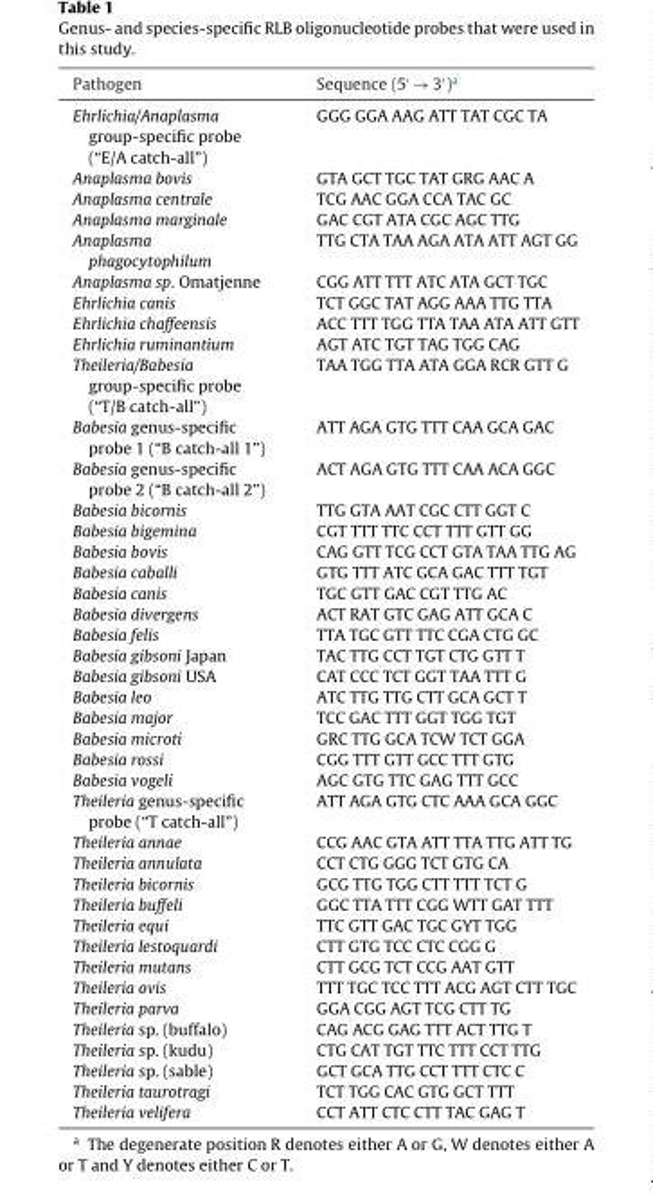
<table><thead><tr><td>Pathogen</td><td>Sequence (5′ → 3′)<sup>a</sup></td></tr></thead><tbody><tr><td>Ehrlichia/Anaplasma group-specific probe (“E/A catch-all”)</td><td>GGG GGA AAG ATT TAT CGC TA</td></tr><tr><td>Anaplasma bovis</td><td>GTA GCT TGC TAT GRG AAC A</td></tr><tr><td>Anaplasma centrale</td><td>TCG AAC GGA CCA TAC GC</td></tr><tr><td>Anaplasma marginale</td><td>GAC CGT ATA CGC AGC TTG</td></tr><tr><td>Anaplasma phagocytophilum</td><td>TTG CTA TAA AGA ATA ATT AGT GG</td></tr><tr><td>Anaplasma sp. Omatjenne</td><td>CGG ATT TTT ATC ATA GCT TGC</td></tr><tr><td>Ehrlichia canis</td><td>TCT GGC TAT AGG AAA TTG TTA</td></tr><tr><td>Ehrlichia chaffeensis</td><td>ACC TTT TGG TTA TAA ATA ATT GTT</td></tr><tr><td>Ehrlichia ruminantium</td><td>AGT ATC TGT TAG TGG CAG</td></tr><tr><td>Theileria/Babesia group-specific probe (“T/B catch-all”)</td><td>TAA TGG TTA ATA GGA RCR GTT G</td></tr><tr><td>Babesia genus-specific probe 1 (“B catch-all 1”)</td><td>ATT AGA GTG TTT CAA GCA GAC</td></tr><tr><td>Babesia genus-specific probe 2 (“B catch-all 2”)</td><td>ACT AGA GTG TTT CAA ACA GGC</td></tr><tr><td>Babesia bicornis</td><td>TTG GTA AAT CGC CTT GGT C</td></tr><tr><td>Babesia bigemina</td><td>CGT TTT TTC CCT TTT GTT GG</td></tr><tr><td>Babesia bovis</td><td>CAG GTT TCG CCT GTA TAA TTG AG</td></tr><tr><td>Babesia caballi</td><td>GTG TTT ATC GCA GAC TTT TGT</td></tr><tr><td>Babesia canis</td><td>TGC GTT GAC CGT TTG AC</td></tr><tr><td>Babesia divergens</td><td>ACT RAT GTC GAG ATT GCA C</td></tr><tr><td>Babesia felis</td><td>TTA TGC GTT TTC CGA CTG GC</td></tr><tr><td>Babesia gibsoni Japan</td><td>TAC TTG CCT TGT CTG GTT T</td></tr><tr><td>Babesia gibsoni USA</td><td>CAT CCC TCT GGT TAA TTT G</td></tr><tr><td>Babesia leo</td><td>ATC TTG TTG CTT GCA GCT T</td></tr><tr><td>Babesia major</td><td>TCC GAC TTT GGT TGG TGT</td></tr><tr><td>Babesia microti</td><td>GRC TTG GCA TCW TCT GGA</td></tr><tr><td>Babesia rossi</td><td>CGG TTT GTT GCC TTT GTG</td></tr><tr><td>Babesia vogeli</td><td>AGC GTG TTC GAG TTT GCC</td></tr><tr><td>Theileria genus-specific probe (“T catch-all”)</td><td>ATT AGA GTG CTC AAA GCA GGC</td></tr><tr><td>Theileria annae</td><td>CCG AAC GTA ATT TTA TTG ATT TG</td></tr><tr><td>Theileria annulata</td><td>CCT CTG GGG TCT GTG CA</td></tr><tr><td>Theileria bicornis</td><td>GCG TTG TGG CTT TTT TCT G</td></tr><tr><td>Theileria buffeli</td><td>GGC TTA TTT CGG WTT GAT TTT</td></tr><tr><td>Theileria equi</td><td>TTC GTT GAC TGC GYT TGG</td></tr><tr><td>Theileria lestoquardi</td><td>CTT GTG TCC CTC CGG G</td></tr><tr><td>Theileria mutans</td><td>CTT GCG TCT CCG AAT GTT</td></tr><tr><td>Theileria ovis</td><td>TTT TGC TCC TTT ACG AGT CTT TGC</td></tr><tr><td>Theileria parva</td><td>GGA CGG AGT TCG CTT TG</td></tr><tr><td>Theileria sp. (buffalo)</td><td>CAG ACG GAG TTT ACT TTG T</td></tr><tr><td>Theileria sp. (kudu)</td><td>CTG CAT TGT TTC TTT CCT TTG</td></tr><tr><td>Theileria sp. (sable)</td><td>GCT GCA TTG CCT TTT CTC C</td></tr><tr><td>Theileria taurotragi</td><td>TCT TGG CAC GTG GCT TTT</td></tr><tr><td>Theileria velifera</td><td>CCT ATT CTC CTT TAC GAG T</td></tr></tbody></table>